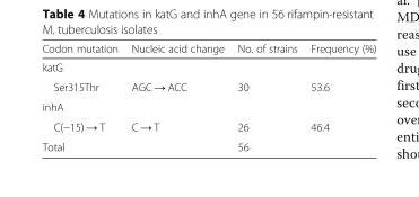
<table><thead><tr><td>Codon mutation</td><td>Nucleic acid change</td><td>No. of strains</td><td>Frequency (%)</td></tr></thead><tbody><tr><td colspan="4">katG</td></tr><tr><td>Ser315Thr</td><td>AGC → ACC</td><td>30</td><td>53.6</td></tr><tr><td colspan="4">inhA</td></tr><tr><td>C(−15) → T</td><td>C → T</td><td>26</td><td>46.4</td></tr><tr><td>Total</td><td></td><td>56</td><td></td></tr></tbody></table>